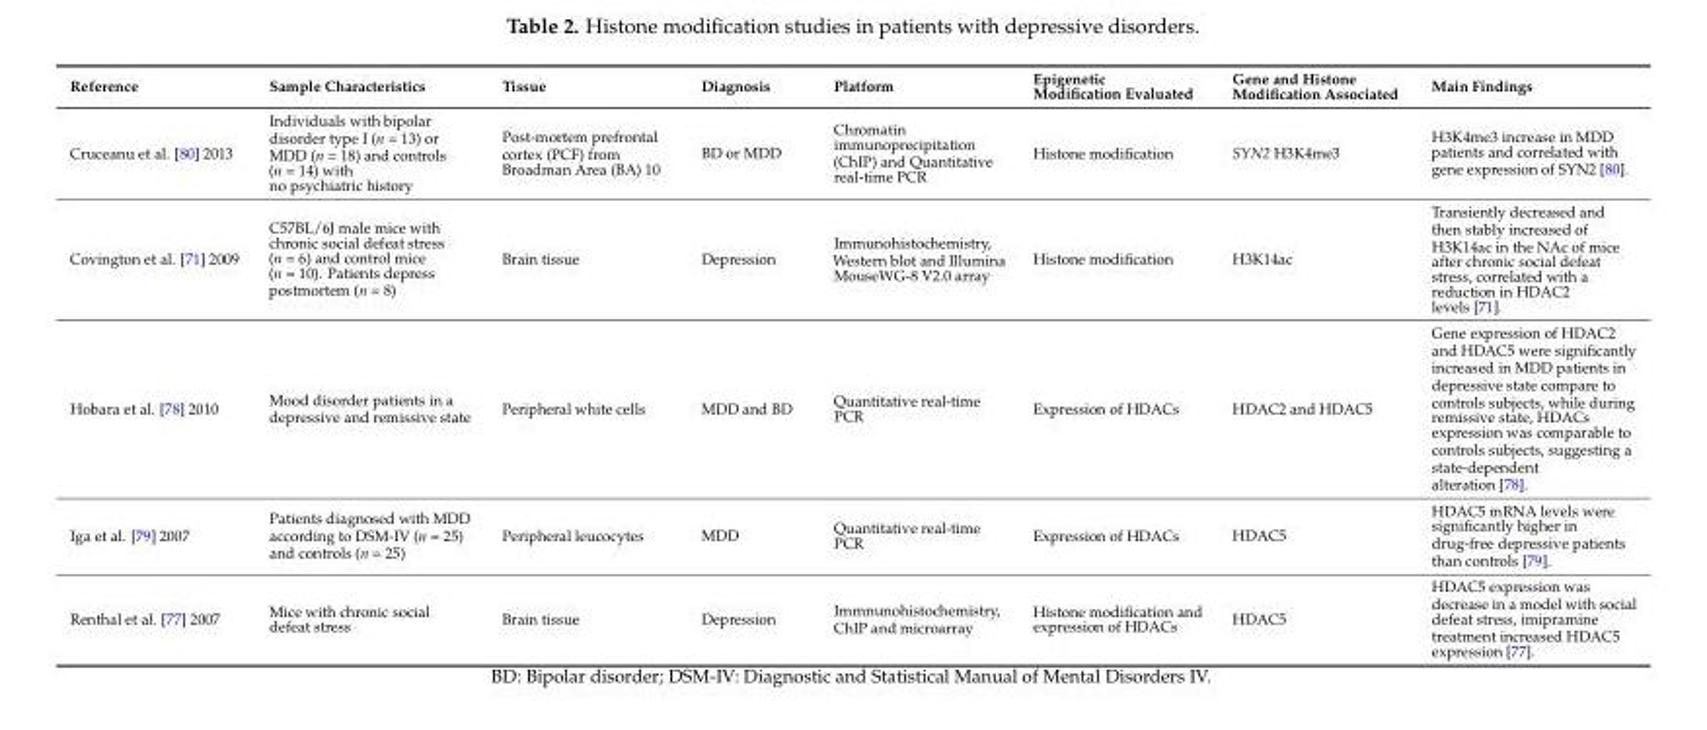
<table><thead><tr><td>Reference</td><td>Sample Characteristics</td><td>Tissue</td><td>Diagnosis</td><td>Platform</td><td>Epigenetic Modification Evaluated</td><td>Gene and Histone Modification Associated</td><td>Main Findings</td></tr></thead><tbody><tr><td>Cruceanu et al. [80] 2013</td><td>Individuals with bipolar disorder type I (n = 13) or MDD (n = 18) and controls (n = 14) with no psychiatric history</td><td>Post-mortem prefrontal cortex (PCF) from Broadman Area (BA) 10</td><td>BD or MDD</td><td>Chromatin immunoprecipitation (ChIP) and Quantitative real-time PCR</td><td>Histone modification</td><td>SYN2 H3K4me3</td><td>H3K4me3 increase in MDD patients and correlated with gene expression of SYN2 [80].</td></tr><tr><td>Covington et al. [71] 2009</td><td>C57BL/6J male mice with chronic social defeat stress (n = 6) and control mice (n = 10). Patients depress postmortem (n = 8)</td><td>Brain tissue</td><td>Depression</td><td>Immunohistochemistry, Western blot and Illumina MouseWG-8 V2.0 array</td><td>Histone modification</td><td>H3K14ac</td><td>Transiently decreased and then stably increased of H3K14ac in the NAc of mice after chronic social defeat stress, correlated with a reduction in HDAC2 levels [71].</td></tr><tr><td>Hobara et al. [78] 2010</td><td>Mood disorder patients in a depressive and remissive state</td><td>Peripheral white cells</td><td>MDD and BD</td><td>Quantitative real-time PCR</td><td>Expression of HDACs</td><td>HDAC2 and HDAC5</td><td>Gene expression of HDAC2 and HDAC5 were significantly increased in MDD patients in depressive state compare to controls subjects, while during remissive state, HDACs expression was comparable to controls subjects, suggesting a state-dependent alteration [78].</td></tr><tr><td>Iga et al. [79] 2007</td><td>Patients diagnosed with MDD according to DSM-IV (n = 25) and controls (n = 25)</td><td>Peripheral leucocytes</td><td>MDD</td><td>Quantitative real-time PCR</td><td>Expression of HDACs</td><td>HDAC5</td><td>HDAC5 mRNA levels were significantly higher in drug-free depressive patients than controls [79].</td></tr><tr><td>Renthal et al. [77] 2007</td><td>Mice with chronic social defeat stress</td><td>Brain tissue</td><td>Depression</td><td>Immnunohistochemistry, ChIP and microarray</td><td>Histone modification and expression of HDACs</td><td>HDAC5</td><td>HDAC5 expression was decrease in a model with social defeat stress, imipramine treatment increased HDAC5 expression [77].</td></tr></tbody></table>